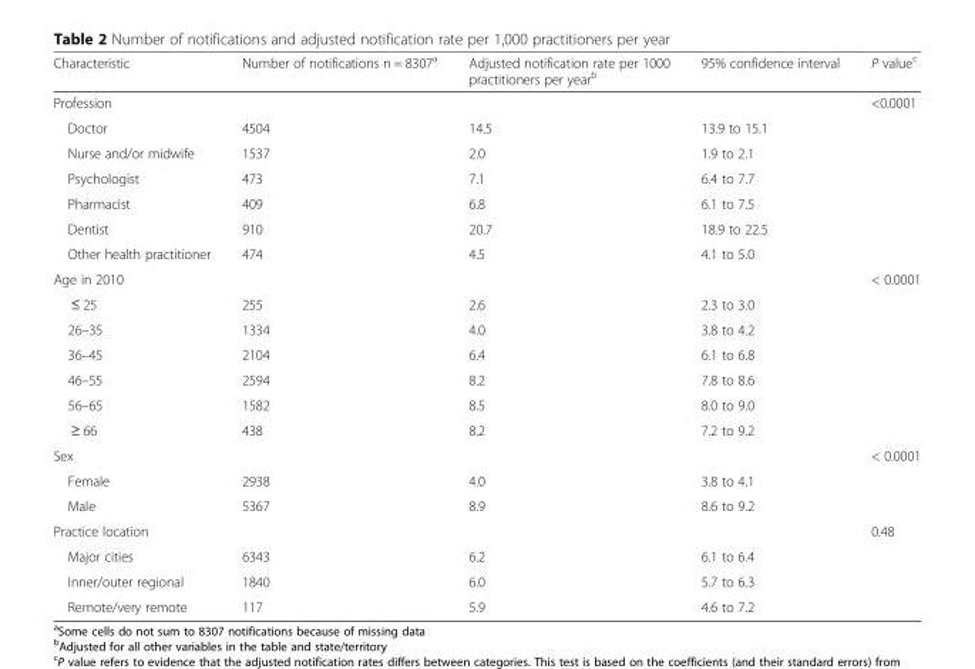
<table><thead><tr><td>Characteristic</td><td>Number of notifications n = 8307<sup>a</sup></td><td>Adjusted notification rate per 1000 practitioners per year<sup>b</sup></td><td>95% confidence interval</td><td>P value<sup>c</sup></td></tr></thead><tbody><tr><td>Profession</td><td></td><td></td><td></td><td>&lt;0.0001</td></tr><tr><td>Doctor</td><td>4504</td><td>14.5</td><td>13.9 to 15.1</td><td></td></tr><tr><td>Nurse and/or midwife</td><td>1537</td><td>2.0</td><td>1.9 to 2.1</td><td></td></tr><tr><td>Psychologist</td><td>473</td><td>7.1</td><td>6.4 to 7.7</td><td></td></tr><tr><td>Pharmacist</td><td>409</td><td>6.8</td><td>6.1 to 7.5</td><td></td></tr><tr><td>Dentist</td><td>910</td><td>20.7</td><td>18.9 to 22.5</td><td></td></tr><tr><td>Other health practitioner</td><td>474</td><td>4.5</td><td>4.1 to 5.0</td><td></td></tr><tr><td>Age in 2010</td><td></td><td></td><td></td><td>&lt; 0.0001</td></tr><tr><td>≤ 25</td><td>255</td><td>2.6</td><td>2.3 to 3.0</td><td></td></tr><tr><td>26–35</td><td>1334</td><td>4.0</td><td>3.8 to 4.2</td><td></td></tr><tr><td>36–45</td><td>2104</td><td>6.4</td><td>6.1 to 6.8</td><td></td></tr><tr><td>46–55</td><td>2594</td><td>8.2</td><td>7.8 to 8.6</td><td></td></tr><tr><td>56–65</td><td>1582</td><td>8.5</td><td>8.0 to 9.0</td><td></td></tr><tr><td>≥ 66</td><td>438</td><td>8.2</td><td>7.2 to 9.2</td><td></td></tr><tr><td>Sex</td><td></td><td></td><td></td><td>&lt; 0.0001</td></tr><tr><td>Female</td><td>2938</td><td>4.0</td><td>3.8 to 4.1</td><td></td></tr><tr><td>Male</td><td>5367</td><td>8.9</td><td>8.6 to 9.2</td><td></td></tr><tr><td>Practice location</td><td></td><td></td><td></td><td>0.48</td></tr><tr><td>Major cities</td><td>6343</td><td>6.2</td><td>6.1 to 6.4</td><td></td></tr><tr><td>Inner/outer regional</td><td>1840</td><td>6.0</td><td>5.7 to 6.3</td><td></td></tr><tr><td>Remote/very remote</td><td>117</td><td>5.9</td><td>4.6 to 7.2</td><td></td></tr></tbody></table>